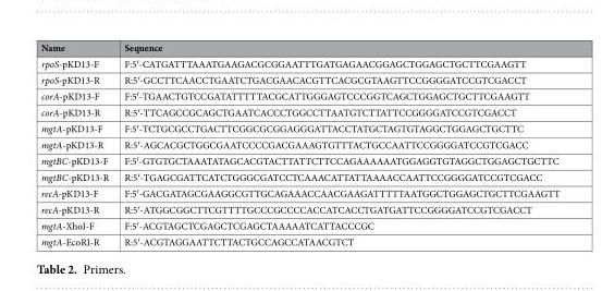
<table><thead><tr><td>Name</td><td>Sequence</td></tr></thead><tbody><tr><td>rpoS-pKD13-F</td><td>F:5′-CATGATTTAAATGAAGACGCGGAATTTGATGAGAACGGAGCTGGAGCTGCTTCGAAGTT</td></tr><tr><td>rpoS-pKD13-R</td><td>R:5′-GCCTTCAACCTGAATCTGACGAACACGTTCACGCGTAAGTTCCGGGGATCCGTCGACCT</td></tr><tr><td>corA-pKD13-F</td><td>F:5′-TGAACTGTCCGATATTTTTACGCATTGGGAGTCCCGGTCAGCTGGAGCTGCTTCGAAGTT</td></tr><tr><td>corA-pKD13-R</td><td>R:5′-TTCAGCCGCAGCTGAATCACCCTGGCCTTAATGTCTTATTCCGGGGATCCGTCGACCT</td></tr><tr><td>mgtA-pKD13-F</td><td>F:5′-TCTGCGCCTGACTTCGGCGCGGAGGGATTACCTATGCTAGTGTAGGCTGGAGCTGCTTC</td></tr><tr><td>mgtA-pKD13-R</td><td>R:5′-AGCACGCTGGCGAATCCCCGACGAAAGTGTTTACTGCCAATTCCGGGGATCCGTCGACC</td></tr><tr><td>mgtBC-pKD13-F</td><td>F:5′-GTGTGCTAAATATAGCACGTACTTATTCTTCCAGAAAAAATGGAGGTGTAGGCTGGAGCTGCTTC</td></tr><tr><td>mgtBC-pKD13-R</td><td>R:5′-TGAGCGATTCATCTGGGCGATCCTCAAACATTATTAAAACCAATTCCGGGGATCCGTCGACC</td></tr><tr><td>recA-pKD13-F</td><td>F:5′-GACGATAGCGAAGGCGTTGCAGAAACCAACGAAGATTTTTAATGGCTGGAGCTGCTTCGAAGTT</td></tr><tr><td>recA-pKD13-R</td><td>R:5′-ATGGCGGCTTCGTTTTGCCCGCCCCACCATCACCTGATGATTCCGGGGATCCGTCGACCT</td></tr><tr><td>mgtA-XhoI-F</td><td>F:5′-ACGTAGCTCGAGCTCGAGCTAAAAATCATTACCCGC</td></tr><tr><td>mgtA-EcoRI-R</td><td>R:5′-ACGTAGGAATTCTTACTGCCAGCCATAACGTCT</td></tr></tbody></table>